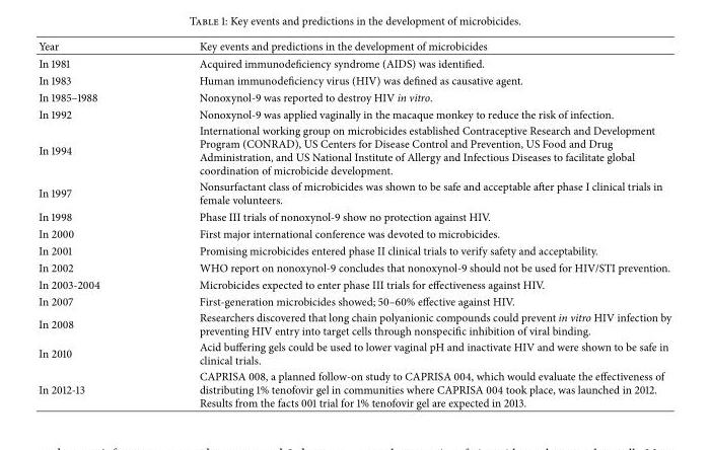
<table><thead><tr><td>Year</td><td>Key events and predictions in the development of microbicides</td></tr></thead><tbody><tr><td>In 1981</td><td>Acquired immunodeficiency syndrome (AIDS) was identified.</td></tr><tr><td>In 1983</td><td>Human immunodeficiency virus (HIV) was defined as causative agent.</td></tr><tr><td>In 1985–1988</td><td>Nonoxynol-9 was reported to destroy HIV in vitro.</td></tr><tr><td>In 1992</td><td>Nonoxynol-9 was applied vaginally in the macaque monkey to reduce the risk of infection.</td></tr><tr><td>In 1994</td><td>International working group on microbicides established Contraceptive Research and Development Program (CONRAD), US Centers for Disease Control and Prevention, US Food and Drug Administration, and US National Institute of Allergy and Infectious Diseases to facilitate global coordination of microbicide development.</td></tr><tr><td>In 1997</td><td>Nonsurfactant class of microbicides was shown to be safe and acceptable after phase I clinical trials in female volunteers.</td></tr><tr><td>In 1998</td><td>Phase III trials of nonoxynol-9 show no protection against HIV.</td></tr><tr><td>In 2000</td><td>First major international conference was devoted to microbicides.</td></tr><tr><td>In 2001</td><td>Promising microbicides entered phase II clinical trials to verify safety and acceptability.</td></tr><tr><td>In 2002</td><td>WHO report on nonoxynol-9 concludes that nonoxynol-9 should not be used for HIV/STI prevention.</td></tr><tr><td>In 2003-2004</td><td>Microbicides expected to enter phase III trials for effectiveness against HIV.</td></tr><tr><td>In 2007</td><td>First-generation microbicides showed; 50–60% effective against HIV.</td></tr><tr><td>In 2008</td><td>Researchers discovered that long chain polyanionic compounds could prevent in vitro HIV infection by preventing HIV entry into target cells through nonspecific inhibition of viral binding.</td></tr><tr><td>In 2010</td><td>Acid buffering gels could be used to lower vaginal pH and inactivate HIV and were shown to be safe in clinical trials.</td></tr><tr><td>In 2012-13</td><td>CAPRISA 008, a planned follow-on study to CAPRISA 004, which would evaluate the effectiveness of distributing 1% tenofovir gel in communities where CAPRISA 004 took place, was launched in 2012. Results from the facts 001 trial for 1% tenofovir gel are expected in 2013.</td></tr></tbody></table>